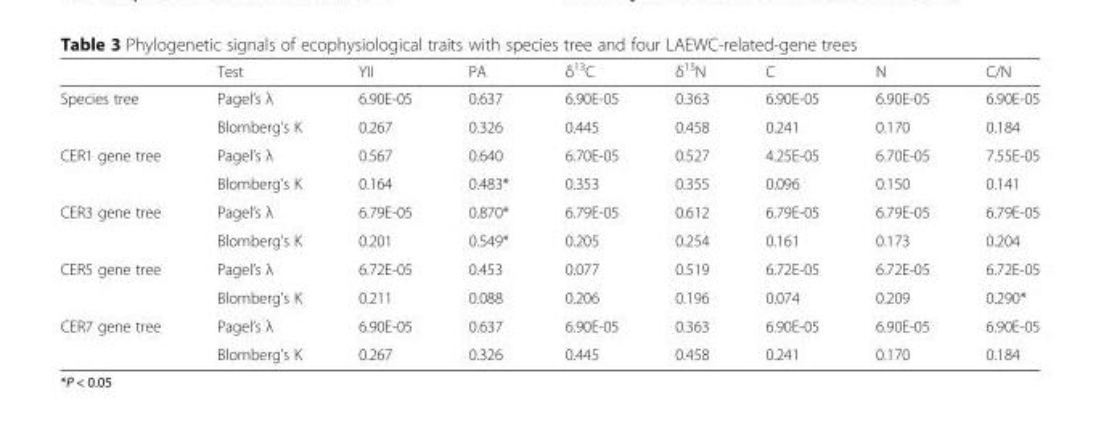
<table><thead><tr><td></td><td>Test</td><td>YII</td><td>PA</td><td>δ<sup>13</sup>C</td><td>δ<sup>15</sup>N</td><td>C</td><td>N</td><td>C/N</td></tr></thead><tbody><tr><td rowspan="2">Species tree</td><td>Pagel’s λ</td><td>6.90E-05</td><td>0.637</td><td>6.90E-05</td><td>0.363</td><td>6.90E-05</td><td>6.90E-05</td><td>6.90E-05</td></tr><tr><td>Blomberg’s K</td><td>0.267</td><td>0.326</td><td>0.445</td><td>0.458</td><td>0.241</td><td>0.170</td><td>0.184</td></tr><tr><td rowspan="2">CER1 gene tree</td><td>Pagel’s λ</td><td>0.567</td><td>0.640</td><td>6.70E-05</td><td>0.527</td><td>4.25E-05</td><td>6.70E-05</td><td>7.55E-05</td></tr><tr><td>Blomberg’s K</td><td>0.164</td><td>0.483*</td><td>0.353</td><td>0.355</td><td>0.096</td><td>0.150</td><td>0.141</td></tr><tr><td rowspan="2">CER3 gene tree</td><td>Pagel’s λ</td><td>6.79E-05</td><td>0.870*</td><td>6.79E-05</td><td>0.612</td><td>6.79E-05</td><td>6.79E-05</td><td>6.79E-05</td></tr><tr><td>Blomberg’s K</td><td>0.201</td><td>0.549*</td><td>0.205</td><td>0.254</td><td>0.161</td><td>0.173</td><td>0.204</td></tr><tr><td rowspan="2">CER5 gene tree</td><td>Pagel’s λ</td><td>6.72E-05</td><td>0.453</td><td>0.077</td><td>0.519</td><td>6.72E-05</td><td>6.72E-05</td><td>6.72E-05</td></tr><tr><td>Blomberg’s K</td><td>0.211</td><td>0.088</td><td>0.206</td><td>0.196</td><td>0.074</td><td>0.209</td><td>0.290*</td></tr><tr><td rowspan="2">CER7 gene tree</td><td>Pagel’s λ</td><td>6.90E-05</td><td>0.637</td><td>6.90E-05</td><td>0.363</td><td>6.90E-05</td><td>6.90E-05</td><td>6.90E-05</td></tr><tr><td>Blomberg’s K</td><td>0.267</td><td>0.326</td><td>0.445</td><td>0.458</td><td>0.241</td><td>0.170</td><td>0.184</td></tr></tbody></table>